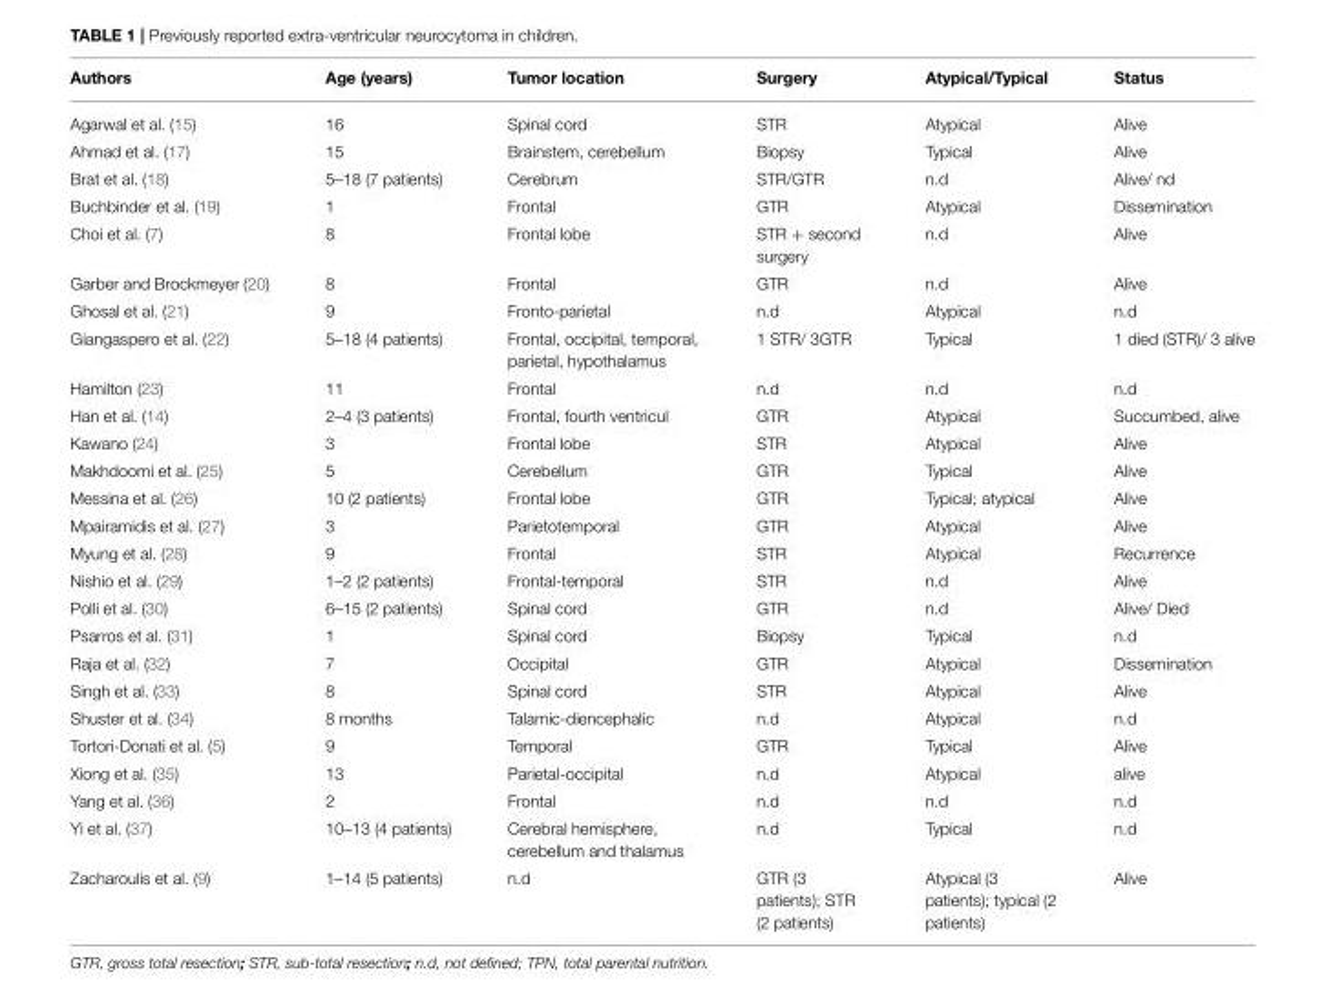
<table><thead><tr><td>Authors</td><td>Age (years)</td><td>Tumor location</td><td>Surgery</td><td>Atypical/Typical</td><td>Status</td></tr></thead><tbody><tr><td>Agarwal et al. (15)</td><td>16</td><td>Spinal cord</td><td>STR</td><td>Atypical</td><td>Alive</td></tr><tr><td>Ahmad et al. (17)</td><td>15</td><td>Brainstem, cerebellum</td><td>Biopsy</td><td>Typical</td><td>Alive</td></tr><tr><td>Brat et al. (18)</td><td>5–18 (7 patients)</td><td>Cerebrum</td><td>STR/GTR</td><td>n.d</td><td>Alive/ nd</td></tr><tr><td>Buchbinder et al. (19)</td><td>1</td><td>Frontal</td><td>GTR</td><td>Atypical</td><td>Dissemination</td></tr><tr><td>Choi et al. (7)</td><td>8</td><td>Frontal lobe</td><td>STR + second surgery</td><td>n.d</td><td>Alive</td></tr><tr><td>Garber and Brockmeyer (20)</td><td>8</td><td>Frontal</td><td>GTR</td><td>n.d</td><td>Alive</td></tr><tr><td>Ghosal et al. (21)</td><td>9</td><td>Fronto-parietal</td><td>n.d</td><td>Atypical</td><td>n.d</td></tr><tr><td>Giangaspero et al. (22)</td><td>5–18 (4 patients)</td><td>Frontal, occipital, temporal, parietal, hypothalamus</td><td>1 STR/ 3GTR</td><td>Typical</td><td>1 died (STR)/ 3 alive</td></tr><tr><td>Hamilton (23)</td><td>11</td><td>Frontal</td><td>n.d</td><td>n.d</td><td>n.d</td></tr><tr><td>Han et al. (14)</td><td>2–4 (3 patients)</td><td>Frontal, fourth ventricul</td><td>GTR</td><td>Atypical</td><td>Succumbed, alive</td></tr><tr><td>Kawano (24)</td><td>3</td><td>Frontal lobe</td><td>STR</td><td>Atypical</td><td>Alive</td></tr><tr><td>Makhdoomi et al. (25)</td><td>5</td><td>Cerebellum</td><td>GTR</td><td>Typical</td><td>Alive</td></tr><tr><td>Messina et al. (26)</td><td>10 (2 patients)</td><td>Frontal lobe</td><td>GTR</td><td>Typical; atypical</td><td>Alive</td></tr><tr><td>Mpairamidis et al. (27)</td><td>3</td><td>Parietotemporal</td><td>GTR</td><td>Atypical</td><td>Alive</td></tr><tr><td>Myung et al. (28)</td><td>9</td><td>Frontal</td><td>STR</td><td>Atypical</td><td>Recurrence</td></tr><tr><td>Nishio et al. (29)</td><td>1–2 (2 patients)</td><td>Frontal-temporal</td><td>STR</td><td>n.d</td><td>Alive</td></tr><tr><td>Polli et al. (30)</td><td>6–15 (2 patients)</td><td>Spinal cord</td><td>GTR</td><td>n.d</td><td>Alive/ Died</td></tr><tr><td>Psarros et al. (31)</td><td>1</td><td>Spinal cord</td><td>Biopsy</td><td>Typical</td><td>n.d</td></tr><tr><td>Raja et al. (32)</td><td>7</td><td>Occipital</td><td>GTR</td><td>Atypical</td><td>Dissemination</td></tr><tr><td>Singh et al. (33)</td><td>8</td><td>Spinal cord</td><td>STR</td><td>Atypical</td><td>Alive</td></tr><tr><td>Shuster et al. (34)</td><td>8 months</td><td>Talamic-diencephalic</td><td>n.d</td><td>Atypical</td><td>n.d</td></tr><tr><td>Tortori-Donati et al. (5)</td><td>9</td><td>Temporal</td><td>GTR</td><td>Typical</td><td>Alive</td></tr><tr><td>Xiong et al. (35)</td><td>13</td><td>Parietal-occipital</td><td>n.d</td><td>Atypical</td><td>alive</td></tr><tr><td>Yang et al. (36)</td><td>2</td><td>Frontal</td><td>n.d</td><td>n.d</td><td>n.d</td></tr><tr><td>Yi et al. (37)</td><td>10–13 (4 patients)</td><td>Cerebral hemisphere, cerebellum and thalamus</td><td>n.d</td><td>Typical</td><td>n.d</td></tr><tr><td>Zacharoulis et al. (9)</td><td>1–14 (5 patients)</td><td>n.d</td><td>GTR (3 patients); STR (2 patients)</td><td>Atypical (3 patients); typical (2 patients)</td><td>Alive</td></tr></tbody></table>